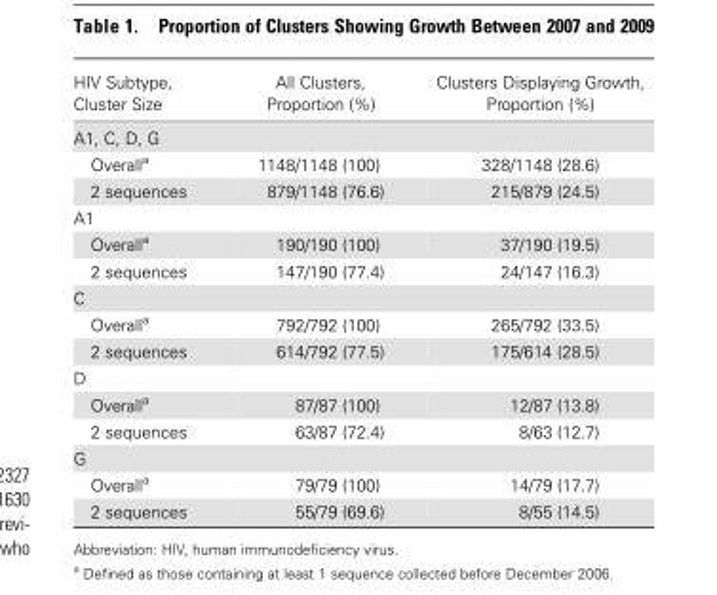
<table><thead><tr><td>HIV Subtype, Cluster Size</td><td>All Clusters, Proportion (%)</td><td>Clusters Displaying Growth, Proportion (%)</td></tr></thead><tbody><tr><td colspan="3">A1, C, D, G</td></tr><tr><td>Overall<sup>a</sup></td><td>1148/1148 (100)</td><td>328/1148 (28.6)</td></tr><tr><td>2 sequences</td><td>879/1148 (76.6)</td><td>215/879 (24.5)</td></tr><tr><td colspan="3">A1</td></tr><tr><td>Overall<sup>a</sup></td><td>190/190 (100)</td><td>37/190 (19.5)</td></tr><tr><td>2 sequences</td><td>147/190 (77.4)</td><td>24/147 (16.3)</td></tr><tr><td colspan="3">C</td></tr><tr><td>Overall<sup>a</sup></td><td>792/792 (100)</td><td>265/792 (33.5)</td></tr><tr><td>2 sequences</td><td>614/792 (77.5)</td><td>175/614 (28.5)</td></tr><tr><td colspan="3">D</td></tr><tr><td>Overall<sup>a</sup></td><td>87/87 (100)</td><td>12/87 (13.8)</td></tr><tr><td>2 sequences</td><td>63/87 (72.4)</td><td>8/63 (12.7)</td></tr><tr><td colspan="3">G</td></tr><tr><td>Overall<sup>a</sup></td><td>79/79 (100)</td><td>14/79 (17.7)</td></tr><tr><td>2 sequences</td><td>55/79 (69.6)</td><td>8/55 (14.5)</td></tr></tbody></table>